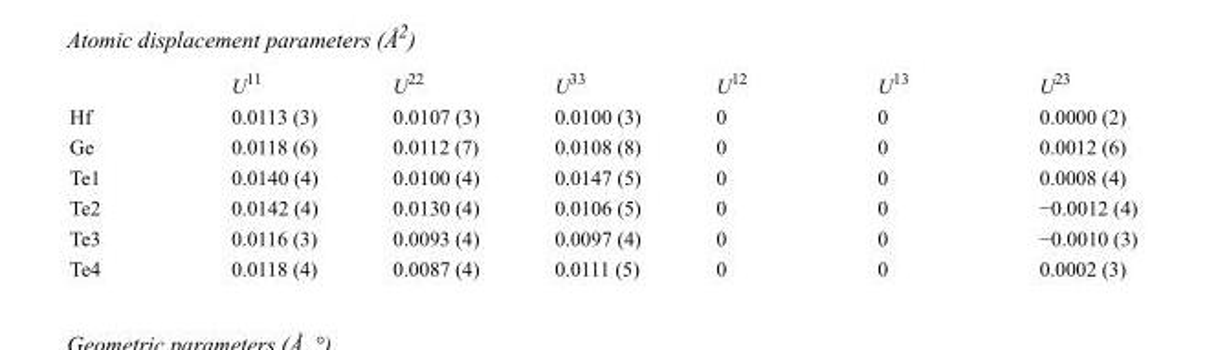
<table><thead><tr><td></td><td>U<sup>11</sup></td><td>U<sup>22</sup></td><td>U<sup>33</sup></td><td>U<sup>12</sup></td><td>U<sup>13</sup></td><td>U<sup>23</sup></td></tr></thead><tbody><tr><td>Hf</td><td>0.0113 (3)</td><td>0.0107 (3)</td><td>0.0100 (3)</td><td>0</td><td>0</td><td>0.0000 (2)</td></tr><tr><td>Ge</td><td>0.0118 (6)</td><td>0.0112 (7)</td><td>0.0108 (8)</td><td>0</td><td>0</td><td>0.0012 (6)</td></tr><tr><td>Te1</td><td>0.0140 (4)</td><td>0.0100 (4)</td><td>0.0147 (5)</td><td>0</td><td>0</td><td>0.0008 (4)</td></tr><tr><td>Te2</td><td>0.0142 (4)</td><td>0.0130 (4)</td><td>0.0106 (5)</td><td>0</td><td>0</td><td>−0.0012 (4)</td></tr><tr><td>Te3</td><td>0.0116 (3)</td><td>0.0093 (4)</td><td>0.0097 (4)</td><td>0</td><td>0</td><td>−0.0010 (3)</td></tr><tr><td>Te4</td><td>0.0118 (4)</td><td>0.0087 (4)</td><td>0.0111 (5)</td><td>0</td><td>0</td><td>0.0002 (3)</td></tr></tbody></table>